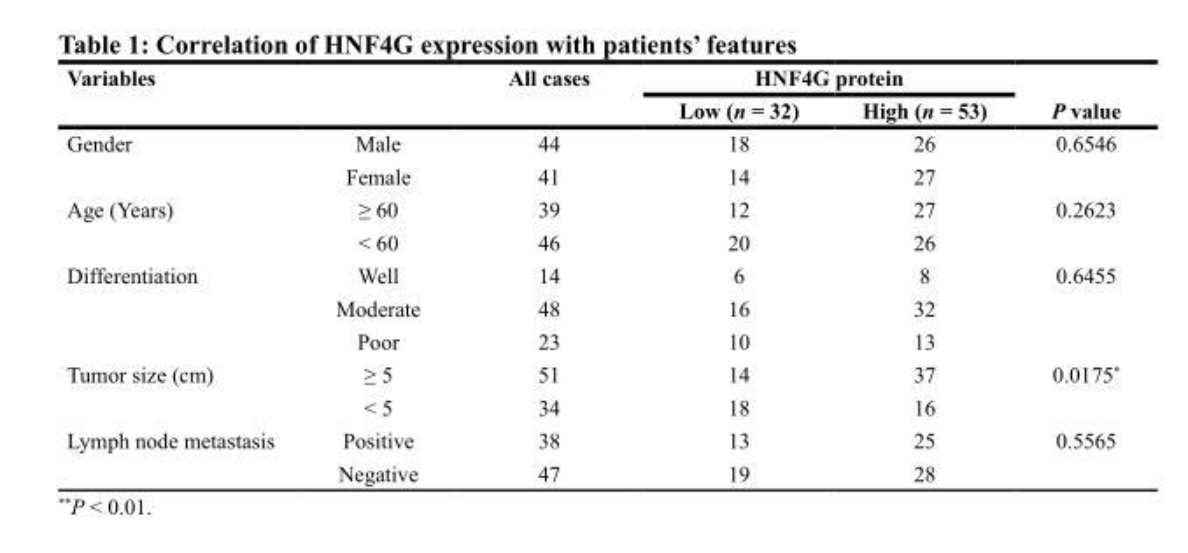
<table><thead><tr><td rowspan="2">Variables</td><td rowspan="2"></td><td rowspan="2">All cases</td><td colspan="2">HNF4G protein</td><td rowspan="2">P value</td></tr><tr><td>Low (n = 32)</td><td>High (n = 53)</td></tr></thead><tbody><tr><td rowspan="2">Gender</td><td>Male</td><td>44</td><td>18</td><td>26</td><td>0.6546</td></tr><tr><td>Female</td><td>41</td><td>14</td><td>27</td><td></td></tr><tr><td rowspan="2">Age (Years)</td><td>≥ 60</td><td>39</td><td>12</td><td>27</td><td>0.2623</td></tr><tr><td>&lt; 60</td><td>46</td><td>20</td><td>26</td><td></td></tr><tr><td rowspan="3">Differentiation</td><td>Well</td><td>14</td><td>6</td><td>8</td><td>0.6455</td></tr><tr><td>Moderate</td><td>48</td><td>16</td><td>32</td><td></td></tr><tr><td>Poor</td><td>23</td><td>10</td><td>13</td><td></td></tr><tr><td rowspan="2">Tumor size (cm)</td><td>≥ 5</td><td>51</td><td>14</td><td>37</td><td>0.0175*</td></tr><tr><td>&lt; 5</td><td>34</td><td>18</td><td>16</td><td></td></tr><tr><td rowspan="2">Lymph node metastasis</td><td>Positive</td><td>38</td><td>13</td><td>25</td><td>0.5565</td></tr><tr><td>Negative</td><td>47</td><td>19</td><td>28</td><td></td></tr></tbody></table>